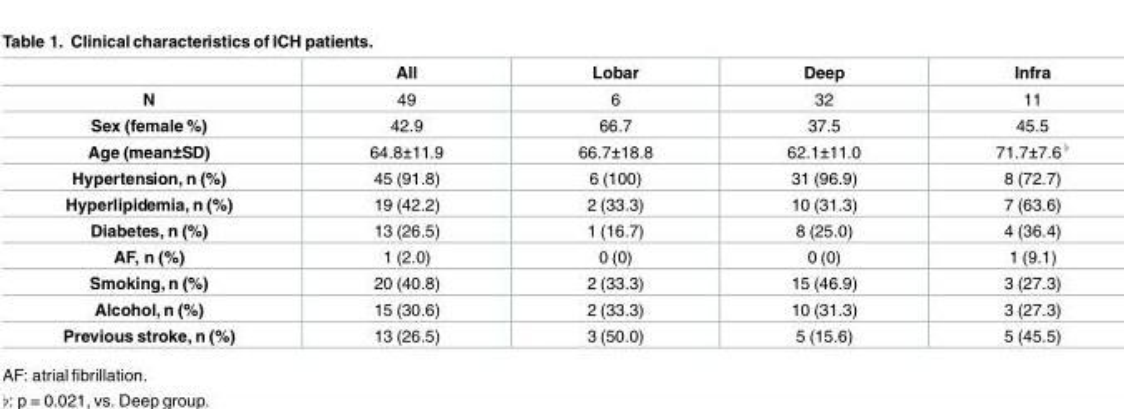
<table><thead><tr><td></td><td>All</td><td>Lobar</td><td>Deep</td><td>Infra</td></tr></thead><tbody><tr><td>N</td><td>49</td><td>6</td><td>32</td><td>11</td></tr><tr><td>Sex (female %)</td><td>42.9</td><td>66.7</td><td>37.5</td><td>45.5</td></tr><tr><td>Age (mean±SD)</td><td>64.8±11.9</td><td>66.7±18.8</td><td>62.1±11.0</td><td>71.7±7.6</td></tr><tr><td>Hypertension, n (%)</td><td>45 (91.8)</td><td>6 (100)</td><td>31 (96.9)</td><td>8 (72.7)</td></tr><tr><td>Hyperlipidemia, n (%)</td><td>19 (42.2)</td><td>2 (33.3)</td><td>10 (31.3)</td><td>7 (63.6)</td></tr><tr><td>Diabetes, n (%)</td><td>13 (26.5)</td><td>1 (16.7)</td><td>8 (25.0)</td><td>4 (36.4)</td></tr><tr><td>AF, n (%)</td><td>1 (2.0)</td><td>0 (0)</td><td>0 (0)</td><td>1 (9.1)</td></tr><tr><td>Smoking, n (%)</td><td>20 (40.8)</td><td>2 (33.3)</td><td>15 (46.9)</td><td>3 (27.3)</td></tr><tr><td>Alcohol, n (%)</td><td>15 (30.6)</td><td>2 (33.3)</td><td>10 (31.3)</td><td>3 (27.3)</td></tr><tr><td>Previous stroke, n (%)</td><td>13 (26.5)</td><td>3 (50.0)</td><td>5 (15.6)</td><td>5 (45.5)</td></tr></tbody></table>